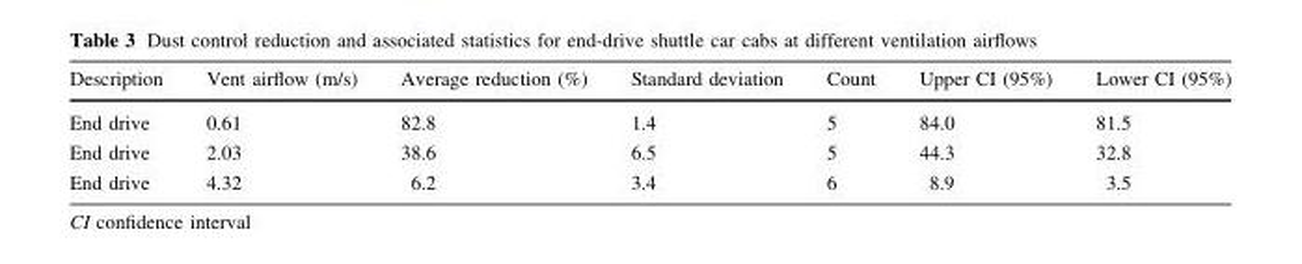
<table><thead><tr><td>Description</td><td>Vent airflow (m/s)</td><td>Average reduction (%)</td><td>Standard deviation</td><td>Count</td><td>Upper CI (95%)</td><td>Lower CI (95%)</td></tr></thead><tbody><tr><td>End drive</td><td>0.61</td><td>82.8</td><td>1.4</td><td>5</td><td>84.0</td><td>81.5</td></tr><tr><td>End drive</td><td>2.03</td><td>38.6</td><td>6.5</td><td>5</td><td>44.3</td><td>32.8</td></tr><tr><td>End drive</td><td>4.32</td><td>6.2</td><td>3.4</td><td>6</td><td>8.9</td><td>3.5</td></tr></tbody></table>